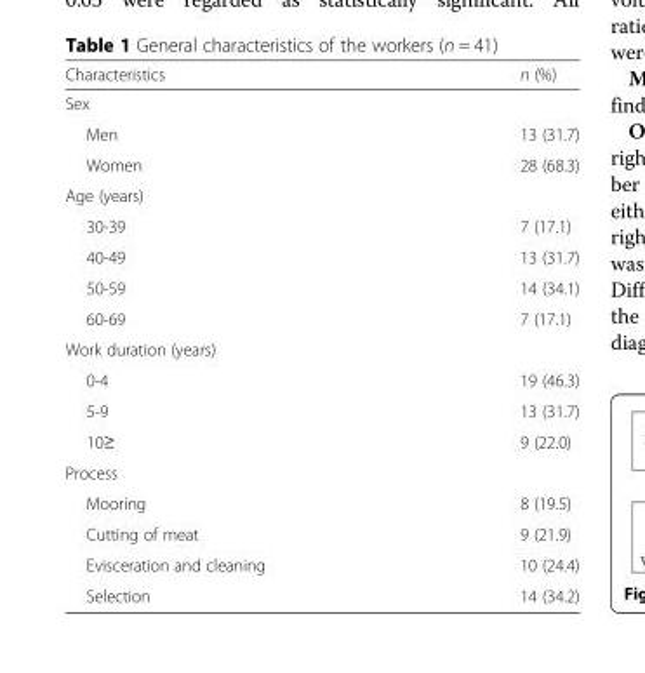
<table><thead><tr><td>Characteristics</td><td>n (%)</td></tr></thead><tbody><tr><td colspan="2">Sex</td></tr><tr><td>Men</td><td>13 (31.7)</td></tr><tr><td>Women</td><td>28 (68.3)</td></tr><tr><td colspan="2">Age (years)</td></tr><tr><td>30-39</td><td>7 (17.1)</td></tr><tr><td>40-49</td><td>13 (31.7)</td></tr><tr><td>50-59</td><td>14 (34.1)</td></tr><tr><td>60-69</td><td>7 (17.1)</td></tr><tr><td colspan="2">Work duration (years)</td></tr><tr><td>0-4</td><td>19 (46.3)</td></tr><tr><td>5-9</td><td>13 (31.7)</td></tr><tr><td>10≥</td><td>9 (22.0)</td></tr><tr><td colspan="2">Process</td></tr><tr><td>Mooring</td><td>8 (19.5)</td></tr><tr><td>Cutting of meat</td><td>9 (21.9)</td></tr><tr><td>Evisceration and cleaning</td><td>10 (24.4)</td></tr><tr><td>Selection</td><td>14 (34.2)</td></tr></tbody></table>